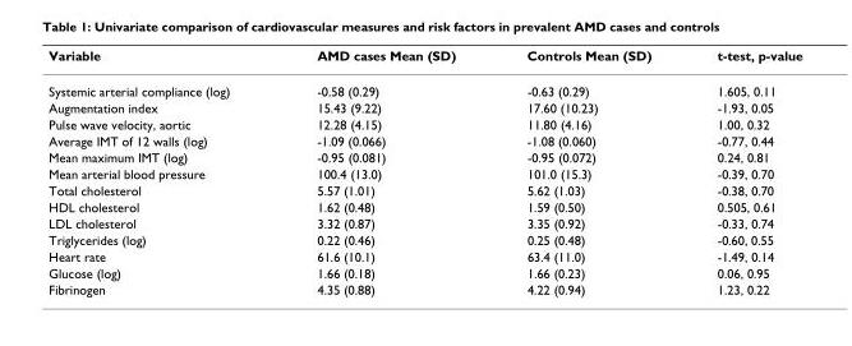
<table><thead><tr><td>Variable</td><td>AMD cases Mean (SD)</td><td>Controls Mean (SD)</td><td>t-test, p-value</td></tr></thead><tbody><tr><td>Systemic arterial compliance (log)</td><td>-0.58 (0.29)</td><td>-0.63 (0.29)</td><td>1.605, 0.11</td></tr><tr><td>Augmentation index</td><td>15.43 (9.22)</td><td>17.60 (10.23)</td><td>-1.93, 0.05</td></tr><tr><td>Pulse wave velocity, aortic</td><td>12.28 (4.15)</td><td>11.80 (4.16)</td><td>1.00, 0.32</td></tr><tr><td>Average IMT of 12 walls (log)</td><td>-1.09 (0.066)</td><td>-1.08 (0.060)</td><td>-0.77, 0.44</td></tr><tr><td>Mean maximum IMT (log)</td><td>-0.95 (0.081)</td><td>-0.95 (0.072)</td><td>0.24, 0.81</td></tr><tr><td>Mean arterial blood pressure</td><td>100.4 (13.0)</td><td>101.0 (15.3)</td><td>-0.39, 0.70</td></tr><tr><td>Total cholesterol</td><td>5.57 (1.01)</td><td>5.62 (1.03)</td><td>-0.38, 0.70</td></tr><tr><td>HDL cholesterol</td><td>1.62 (0.48)</td><td>1.59 (0.50)</td><td>0.505, 0.61</td></tr><tr><td>LDL cholesterol</td><td>3.32 (0.87)</td><td>3.35 (0.92)</td><td>-0.33, 0.74</td></tr><tr><td>Triglycerides (log)</td><td>0.22 (0.46)</td><td>0.25 (0.48)</td><td>-0.60, 0.55</td></tr><tr><td>Heart rate</td><td>61.6 (10.1)</td><td>63.4 (11.0)</td><td>-1.49, 0.14</td></tr><tr><td>Glucose (log)</td><td>1.66 (0.18)</td><td>1.66 (0.23)</td><td>0.06, 0.95</td></tr><tr><td>Fibrinogen</td><td>4.35 (0.88)</td><td>4.22 (0.94)</td><td>1.23, 0.22</td></tr></tbody></table>